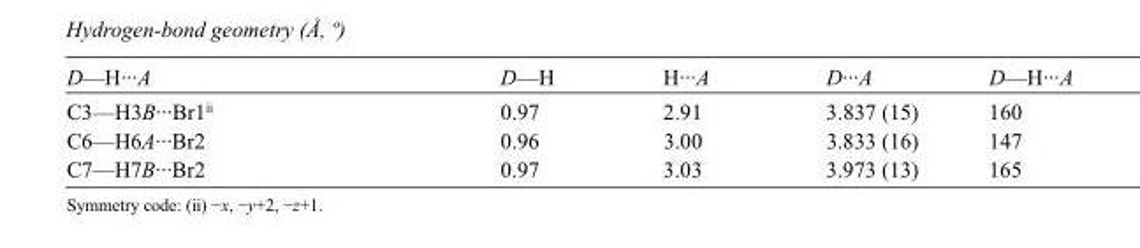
<table><tbody><tr><td>D—H···A</td><td>D—H</td><td>H···A</td><td>D···A</td><td>D—H···A</td></tr><tr><td>C3—H3B···Br1<sup>ii</sup></td><td>0.97</td><td>2.91</td><td>3.837 (15)</td><td>160</td></tr><tr><td>C6—H6A···Br2</td><td>0.96</td><td>3.00</td><td>3.833 (16)</td><td>147</td></tr><tr><td>C7—H7B···Br2</td><td>0.97</td><td>3.03</td><td>3.973 (13)</td><td>165</td></tr></tbody></table>